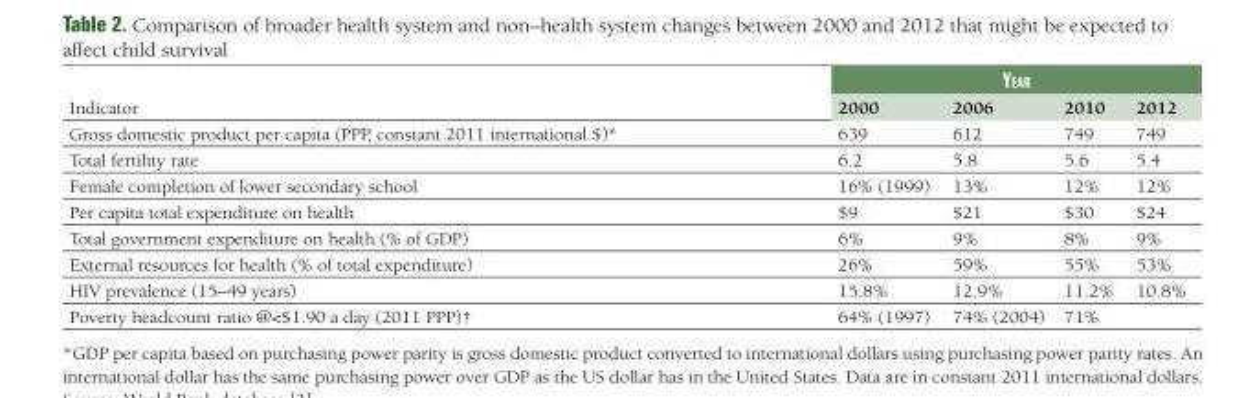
<table><thead><tr><td rowspan="2">Indicator</td><td colspan="4">year</td></tr><tr><td>2000</td><td>2006</td><td>2010</td><td>2012</td></tr></thead><tbody><tr><td>Gross domestic product per capita (PPP, constant 2011 international $)*</td><td>639</td><td>612</td><td>749</td><td>749</td></tr><tr><td>Total fertility rate</td><td>6.2</td><td>5.8</td><td>5.6</td><td>5.4</td></tr><tr><td>Female completion of lower secondary school</td><td>16% (1999)</td><td>13%</td><td>12%</td><td>12%</td></tr><tr><td>Per capita total expenditure on health</td><td>$9</td><td>$21</td><td>$30</td><td>$24</td></tr><tr><td>Total government expenditure on health (% of GDP)</td><td>6%</td><td>9%</td><td>8%</td><td>9%</td></tr><tr><td>External resources for health (% of total expenditure)</td><td>26%</td><td>59%</td><td>55%</td><td>53%</td></tr><tr><td>HIV prevalence (15–49 years)</td><td>15.8%</td><td>12.9%</td><td>11.2%</td><td>10.8%</td></tr><tr><td>Poverty headcount ratio @&lt;$1.90 a day (2011 PPP)†</td><td>64% (1997)</td><td>74% (2004)</td><td>71%</td><td></td></tr></tbody></table>